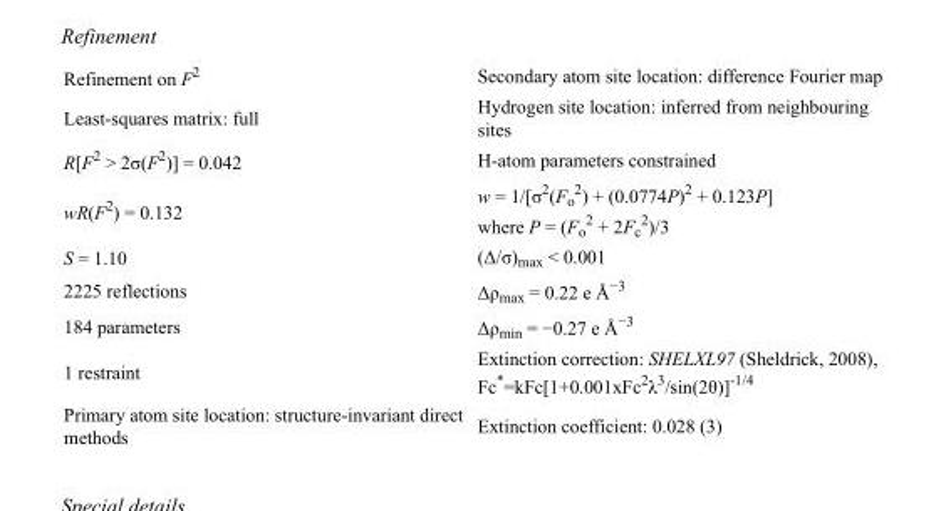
<table><tbody><tr><td>Refinement on F<sup>2</sup></td><td>Secondary atom site location: difference Fourier map</td></tr><tr><td>Least-squares matrix: full</td><td>Hydrogen site location: inferred from neighbouring sites</td></tr><tr><td>R[F<sup>2</sup> &gt; 2σ(F<sup>2</sup>)] = 0.042</td><td>H-atom parameters constrained</td></tr><tr><td>wR(F<sup>2</sup>) = 0.132</td><td>w = 1/[σ<sup>2</sup>(F<sub>o</sub> <sup>2</sup>) + (0.0774P)<sup>2</sup> + 0.123P] where P = (F<sub>o</sub> <sup>2</sup> + 2F<sub>c</sub> <sup>2</sup>)/3</td></tr><tr><td>S = 1.10</td><td>(Δ/σ)<sub>max</sub> &lt; 0.001</td></tr><tr><td>2225 reflections</td><td>Δρ<sub>max</sub> = 0.22 e Å<sup>−3</sup></td></tr><tr><td>184 parameters</td><td>Δρ<sub>min</sub> = −0.27 e Å<sup>−3</sup></td></tr><tr><td>1 restraint</td><td>Extinction correction: SHELXL97 (Sheldrick, 2008), Fc*=kFc[1+0.001xFc<sup>2</sup>λ<sup>3</sup>/sin(2θ)]<sup>-1/4</sup></td></tr><tr><td>Primary atom site location: structure-invariant direct methods</td><td>Extinction coefficient: 0.028 (3)</td></tr></tbody></table>